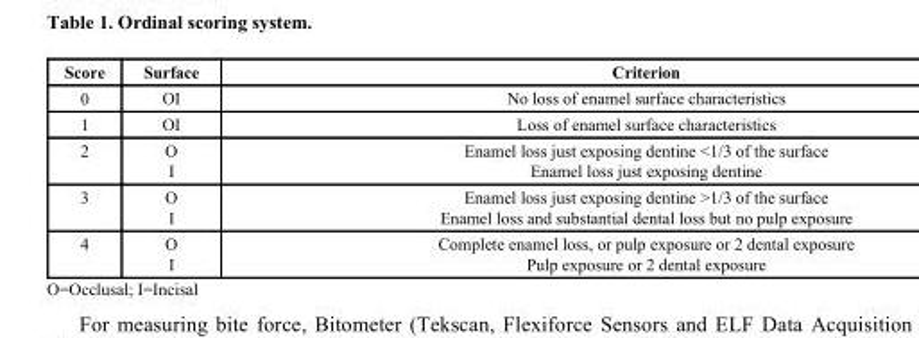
<table><thead><tr><td>Score</td><td>Surface</td><td>Criterion</td></tr></thead><tbody><tr><td>0</td><td>OI</td><td>No loss of enamel surface characteristics</td></tr><tr><td>1</td><td>OI</td><td>Loss of enamel surface characteristics</td></tr><tr><td>2</td><td>O I</td><td>Enamel loss just exposing dentine &lt;1/3 of the surface Enamel loss just exposing dentine</td></tr><tr><td>3</td><td>O I</td><td>Enamel loss just exposing dentine &gt;1/3 of the surface Enamel loss and substantial dental loss but no pulp exposure</td></tr><tr><td>4</td><td>O I</td><td>Complete enamel loss, or pulp exposure or 2 dental exposure Pulp exposure or 2 dental exposure</td></tr></tbody></table>